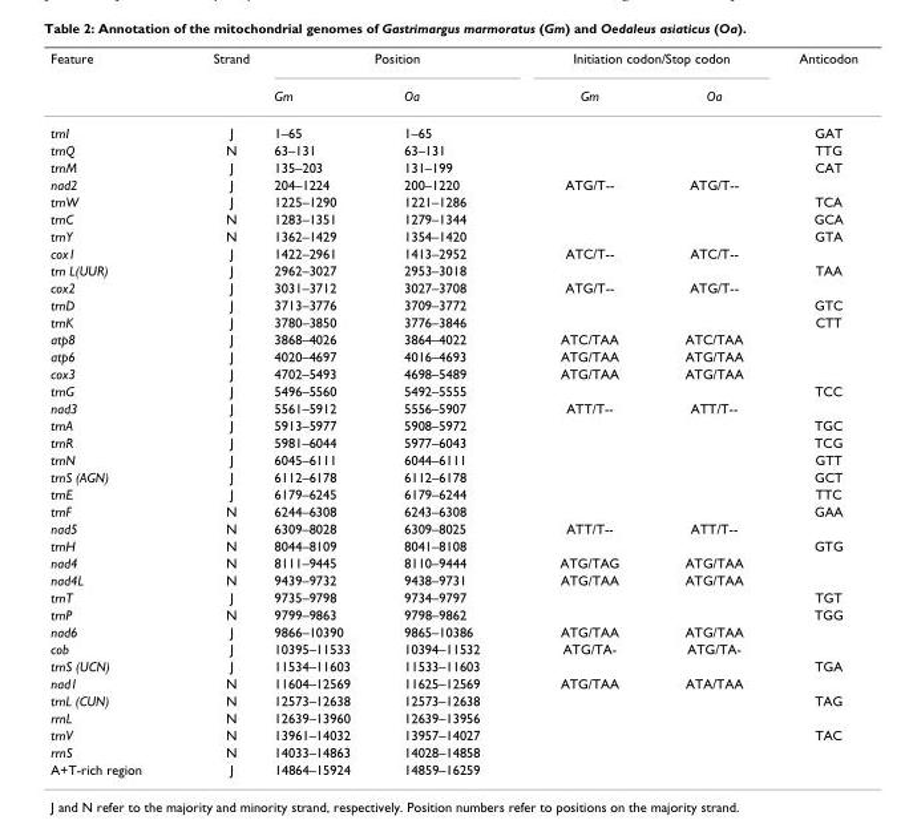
<table><thead><tr><td rowspan="2">Feature</td><td rowspan="2">Strand</td><td colspan="2">Position</td><td colspan="2">Initiation codon/Stop codon</td><td rowspan="2">Anticodon</td></tr><tr><td>Gm</td><td>Oa</td><td>Gm</td><td>Oa</td></tr></thead><tbody><tr><td>trnI</td><td>J</td><td>1–65</td><td>1–65</td><td></td><td></td><td>GAT</td></tr><tr><td>trnQ</td><td>N</td><td>63–131</td><td>63–131</td><td></td><td></td><td>TTG</td></tr><tr><td>trnM</td><td>J</td><td>135–203</td><td>131–199</td><td></td><td></td><td>CAT</td></tr><tr><td>nad2</td><td>J</td><td>204–1224</td><td>200–1220</td><td>ATG/T--</td><td>ATG/T--</td><td></td></tr><tr><td>trnW</td><td>J</td><td>1225–1290</td><td>1221–1286</td><td></td><td></td><td>TCA</td></tr><tr><td>trnC</td><td>N</td><td>1283–1351</td><td>1279–1344</td><td></td><td></td><td>GCA</td></tr><tr><td>trnY</td><td>N</td><td>1362–1429</td><td>1354–1420</td><td></td><td></td><td>GTA</td></tr><tr><td>cox1</td><td>J</td><td>1422–2961</td><td>1413–2952</td><td>ATC/T--</td><td>ATC/T--</td><td></td></tr><tr><td>trn L(UUR)</td><td>J</td><td>2962–3027</td><td>2953–3018</td><td></td><td></td><td>TAA</td></tr><tr><td>cox2</td><td>J</td><td>3031–3712</td><td>3027–3708</td><td>ATG/T--</td><td>ATG/T--</td><td></td></tr><tr><td>trnD</td><td>J</td><td>3713–3776</td><td>3709–3772</td><td></td><td></td><td>GTC</td></tr><tr><td>trnK</td><td>J</td><td>3780–3850</td><td>3776–3846</td><td></td><td></td><td>CTT</td></tr><tr><td>atp8</td><td>J</td><td>3868–4026</td><td>3864–4022</td><td>ATC/TAA</td><td>ATC/TAA</td><td></td></tr><tr><td>atp6</td><td>J</td><td>4020–4697</td><td>4016–4693</td><td>ATG/TAA</td><td>ATG/TAA</td><td></td></tr><tr><td>cox3</td><td>J</td><td>4702–5493</td><td>4698–5489</td><td>ATG/TAA</td><td>ATG/TAA</td><td></td></tr><tr><td>trnG</td><td>J</td><td>5496–5560</td><td>5492–5555</td><td></td><td></td><td>TCC</td></tr><tr><td>nad3</td><td>J</td><td>5561–5912</td><td>5556–5907</td><td>ATT/T--</td><td>ATT/T--</td><td></td></tr><tr><td>trnA</td><td>J</td><td>5913–5977</td><td>5908–5972</td><td></td><td></td><td>TGC</td></tr><tr><td>trnR</td><td>J</td><td>5981–6044</td><td>5977–6043</td><td></td><td></td><td>TCG</td></tr><tr><td>trnN</td><td>J</td><td>6045–6111</td><td>6044–6111</td><td></td><td></td><td>GTT</td></tr><tr><td>trnS (AGN)</td><td>J</td><td>6112–6178</td><td>6112–6178</td><td></td><td></td><td>GCT</td></tr><tr><td>trnE</td><td>J</td><td>6179–6245</td><td>6179–6244</td><td></td><td></td><td>TTC</td></tr><tr><td>trnF</td><td>N</td><td>6244–6308</td><td>6243–6308</td><td></td><td></td><td>GAA</td></tr><tr><td>nad5</td><td>N</td><td>6309–8028</td><td>6309–8025</td><td>ATT/T--</td><td>ATT/T--</td><td></td></tr><tr><td>trnH</td><td>N</td><td>8044–8109</td><td>8041–8108</td><td></td><td></td><td>GTG</td></tr><tr><td>nad4</td><td>N</td><td>8111–9445</td><td>8110–9444</td><td>ATG/TAG</td><td>ATG/TAA</td><td></td></tr><tr><td>nad4L</td><td>N</td><td>9439–9732</td><td>9438–9731</td><td>ATG/TAA</td><td>ATG/TAA</td><td></td></tr><tr><td>trnT</td><td>J</td><td>9735–9798</td><td>9734–9797</td><td></td><td></td><td>TGT</td></tr><tr><td>trnP</td><td>N</td><td>9799–9863</td><td>9798–9862</td><td></td><td></td><td>TGG</td></tr><tr><td>nad6</td><td>J</td><td>9866–10390</td><td>9865–10386</td><td>ATG/TAA</td><td>ATG/TAA</td><td></td></tr><tr><td>cob</td><td>J</td><td>10395–11533</td><td>10394–11532</td><td>ATG/TA-</td><td>ATG/TA-</td><td></td></tr><tr><td>trnS (UCN)</td><td>J</td><td>11534–11603</td><td>11533–11603</td><td></td><td></td><td>TGA</td></tr><tr><td>nad1</td><td>N</td><td>11604–12569</td><td>11625–12569</td><td>ATG/TAA</td><td>ATA/TAA</td><td></td></tr><tr><td>trnL (CUN)</td><td>N</td><td>12573–12638</td><td>12573–12638</td><td></td><td></td><td>TAG</td></tr><tr><td>rrnL</td><td>N</td><td>12639–13960</td><td>12639–13956</td><td></td><td></td><td></td></tr><tr><td>trnV</td><td>N</td><td>13961–14032</td><td>13957–14027</td><td></td><td></td><td>TAC</td></tr><tr><td>rrnS</td><td>N</td><td>14033–14863</td><td>14028–14858</td><td></td><td></td><td></td></tr><tr><td>A+T-rich region</td><td>J</td><td>14864–15924</td><td>14859–16259</td><td></td><td></td><td></td></tr></tbody></table>